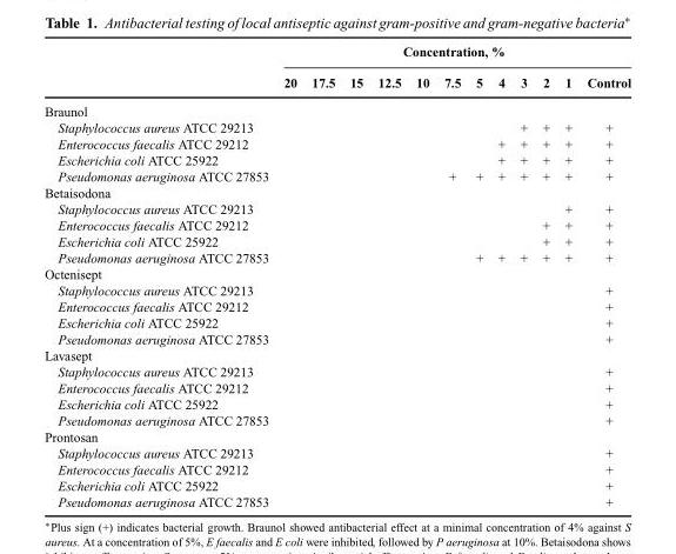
<table><thead><tr><td rowspan="2"></td><td colspan="12">Concentration, %</td></tr><tr><td>20</td><td>17.5</td><td>15</td><td>12.5</td><td>10</td><td>7.5</td><td>5</td><td>4</td><td>3</td><td>2</td><td>1</td><td>Control</td></tr></thead><tbody><tr><td colspan="13">Braunol</td></tr><tr><td>Staphylococcus aureus ATCC 29213</td><td></td><td></td><td></td><td></td><td></td><td></td><td></td><td></td><td>+</td><td>+</td><td>+</td><td>+</td></tr><tr><td>Enterococcus faecalis ATCC 29212</td><td></td><td></td><td></td><td></td><td></td><td></td><td></td><td>+</td><td>+</td><td>+</td><td>+</td><td>+</td></tr><tr><td>Escherichia coli ATCC 25922</td><td></td><td></td><td></td><td></td><td></td><td></td><td></td><td>+</td><td>+</td><td>+</td><td>+</td><td>+</td></tr><tr><td>Pseudomonas aeruginosa ATCC 27853</td><td></td><td></td><td></td><td></td><td></td><td>+</td><td>+</td><td>+</td><td>+</td><td>+</td><td>+</td><td>+</td></tr><tr><td colspan="13">Betaisodona</td></tr><tr><td>Staphylococcus aureus ATCC 29213</td><td></td><td></td><td></td><td></td><td></td><td></td><td></td><td></td><td></td><td></td><td>+</td><td>+</td></tr><tr><td>Enterococcus faecalis ATCC 29212</td><td></td><td></td><td></td><td></td><td></td><td></td><td></td><td></td><td></td><td>+</td><td>+</td><td>+</td></tr><tr><td>Escherichia coli ATCC 25922</td><td></td><td></td><td></td><td></td><td></td><td></td><td></td><td></td><td></td><td>+</td><td>+</td><td>+</td></tr><tr><td>Pseudomonas aeruginosa ATCC 27853</td><td></td><td></td><td></td><td></td><td></td><td></td><td>+</td><td>+</td><td>+</td><td>+</td><td>+</td><td>+</td></tr><tr><td colspan="13">Octenisept</td></tr><tr><td>Staphylococcus aureus ATCC 29213</td><td></td><td></td><td></td><td></td><td></td><td></td><td></td><td></td><td></td><td></td><td></td><td>+</td></tr><tr><td>Enterococcus faecalis ATCC 29212</td><td></td><td></td><td></td><td></td><td></td><td></td><td></td><td></td><td></td><td></td><td></td><td>+</td></tr><tr><td>Escherichia coli ATCC 25922</td><td></td><td></td><td></td><td></td><td></td><td></td><td></td><td></td><td></td><td></td><td></td><td>+</td></tr><tr><td>Pseudomonas aeruginosa ATCC 27853</td><td></td><td></td><td></td><td></td><td></td><td></td><td></td><td></td><td></td><td></td><td></td><td>+</td></tr><tr><td colspan="13">Lavasept</td></tr><tr><td>Staphylococcus aureus ATCC 29213</td><td></td><td></td><td></td><td></td><td></td><td></td><td></td><td></td><td></td><td></td><td></td><td>+</td></tr><tr><td>Enterococcus faecalis ATCC 29212</td><td></td><td></td><td></td><td></td><td></td><td></td><td></td><td></td><td></td><td></td><td></td><td>+</td></tr><tr><td>Escherichia coli ATCC 25922</td><td></td><td></td><td></td><td></td><td></td><td></td><td></td><td></td><td></td><td></td><td></td><td>+</td></tr><tr><td>Pseudomonas aeruginosa ATCC 27853</td><td></td><td></td><td></td><td></td><td></td><td></td><td></td><td></td><td></td><td></td><td></td><td>+</td></tr><tr><td colspan="13">Prontosan</td></tr><tr><td>Staphylococcus aureus ATCC 29213</td><td></td><td></td><td></td><td></td><td></td><td></td><td></td><td></td><td></td><td></td><td></td><td>+</td></tr><tr><td>Enterococcus faecalis ATCC 29212</td><td></td><td></td><td></td><td></td><td></td><td></td><td></td><td></td><td></td><td></td><td></td><td>+</td></tr><tr><td>Escherichia coli ATCC 25922</td><td></td><td></td><td></td><td></td><td></td><td></td><td></td><td></td><td></td><td></td><td></td><td>+</td></tr><tr><td>Pseudomonas aeruginosa ATCC 27853</td><td></td><td></td><td></td><td></td><td></td><td></td><td></td><td></td><td></td><td></td><td></td><td>+</td></tr></tbody></table>